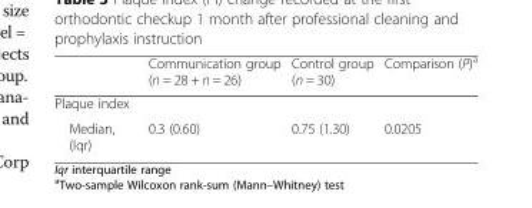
<table><thead><tr><td></td><td>Communication group (n = 28 + n = 26)</td><td>Control group (n = 30)</td><td>Comparison (P)<sup>a</sup></td></tr></thead><tbody><tr><td colspan="4">Plaque index</td></tr><tr><td>Median, (Iqr)</td><td>0.3 (0.60)</td><td>0.75 (1.30)</td><td>0.0205</td></tr></tbody></table>